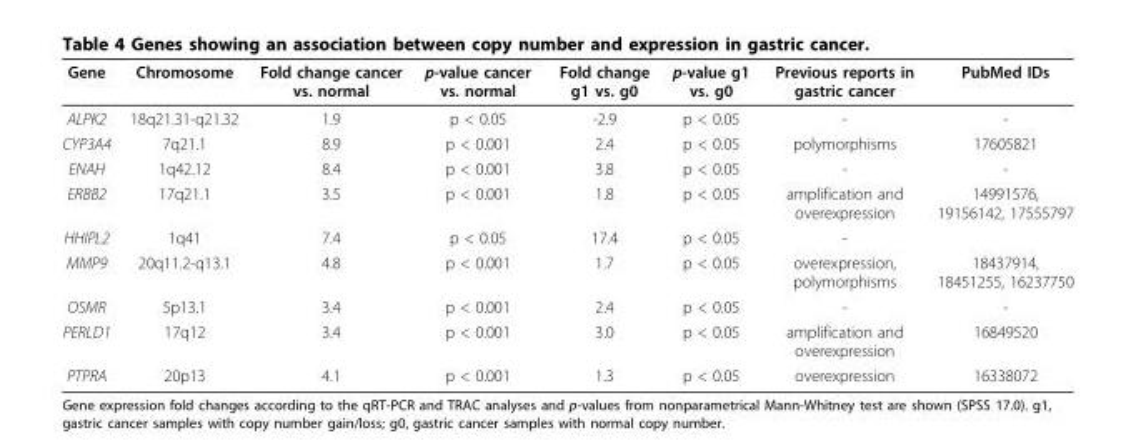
<table><thead><tr><td>Gene</td><td>Chromosome</td><td>Fold change cancer vs. normal</td><td>p-value cancer vs. normal</td><td>Fold change g1 vs. g0</td><td>p-value g1 vs. g0</td><td>Previous reports in gastric cancer</td><td>PubMed IDs</td></tr></thead><tbody><tr><td>ALPK2</td><td>18q21.31-q21.32</td><td>1.9</td><td>p &lt; 0.05</td><td>-2.9</td><td>p &lt; 0.05</td><td>-</td><td>-</td></tr><tr><td>CYP3A4</td><td>7q21.1</td><td>8.9</td><td>p &lt; 0.001</td><td>2.4</td><td>p &lt; 0.05</td><td>polymorphisms</td><td>17605821</td></tr><tr><td>ENAH</td><td>1q42.12</td><td>8.4</td><td>p &lt; 0.001</td><td>3.8</td><td>p &lt; 0.05</td><td>-</td><td>-</td></tr><tr><td>ERBB2</td><td>17q21.1</td><td>3.5</td><td>p &lt; 0.001</td><td>1.8</td><td>p &lt; 0.05</td><td>amplification and overexpression</td><td>14991576, 19156142, 17555797</td></tr><tr><td>HHIPL2</td><td>1q41</td><td>7.4</td><td>p &lt; 0.05</td><td>17.4</td><td>p &lt; 0.05</td><td>-</td><td></td></tr><tr><td>MMP9</td><td>20q11.2-q13.1</td><td>4.8</td><td>p &lt; 0.001</td><td>1.7</td><td>p &lt; 0.05</td><td>overexpression, polymorphisms</td><td>18437914, 18451255, 16237750</td></tr><tr><td>OSMR</td><td>5p13.1</td><td>3.4</td><td>p &lt; 0.001</td><td>2.4</td><td>p &lt; 0.05</td><td>-</td><td>-</td></tr><tr><td>PERLD1</td><td>17q12</td><td>3.4</td><td>p &lt; 0.001</td><td>3.0</td><td>p &lt; 0.05</td><td>amplification and overexpression</td><td>16849520</td></tr><tr><td>PTPRA</td><td>20p13</td><td>4.1</td><td>p &lt; 0.001</td><td>1.3</td><td>p &lt; 0.05</td><td>overexpression</td><td>16338072</td></tr></tbody></table>